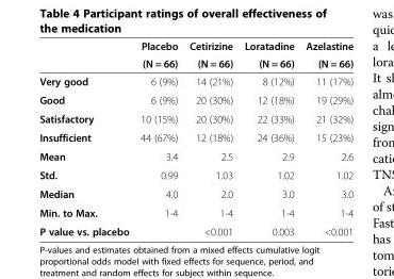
<table><thead><tr><td rowspan="2"></td><td rowspan="2">Placebo (N = 66)</td><td rowspan="2">Cetirizine (N = 66)</td><td rowspan="2">Loratadine (N = 66)</td><td rowspan="2">Azelastine (N = 66)</td></tr><tr></tr></thead><tbody><tr><td>Very good</td><td>6 (9%)</td><td>14 (21%)</td><td>8 (12%)</td><td>11 (17%)</td></tr><tr><td>Good</td><td>6 (9%)</td><td>20 (30%)</td><td>12 (18%)</td><td>19 (29%)</td></tr><tr><td>Satisfactory</td><td>10 (15%)</td><td>20 (30%)</td><td>22 (33%)</td><td>21 (32%)</td></tr><tr><td>Insufficient</td><td>44 (67%)</td><td>12 (18%)</td><td>24 (36%)</td><td>15 (23%)</td></tr><tr><td>Mean</td><td>3.4</td><td>2.5</td><td>2.9</td><td>2.6</td></tr><tr><td>Std.</td><td>0.99</td><td>1.03</td><td>1.02</td><td>1.02</td></tr><tr><td>Median</td><td>4.0</td><td>2.0</td><td>3.0</td><td>3.0</td></tr><tr><td>Min. to Max.</td><td>1-4</td><td>1-4</td><td>1-4</td><td>1-4</td></tr><tr><td>P value vs. placebo</td><td></td><td>&lt;0.001</td><td>0.003</td><td>&lt;0.001</td></tr></tbody></table>